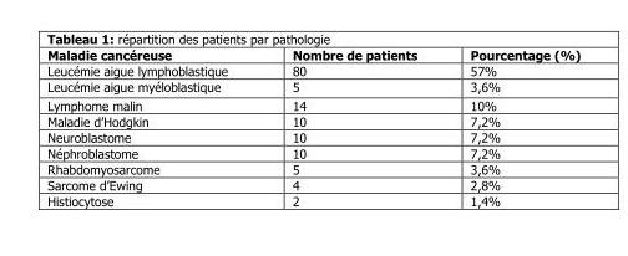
<table><thead><tr><td>Maladie cancéreuse</td><td>Nombre de patients</td><td>Pourcentage (%)</td></tr></thead><tbody><tr><td>Leucémie aigue lymphoblastique</td><td>80</td><td>57%</td></tr><tr><td>Leucémie aigue myéloblastique</td><td>5</td><td>3,6%</td></tr><tr><td>Lymphome malin</td><td>14</td><td>10%</td></tr><tr><td>Maladie d’Hodgkin</td><td>10</td><td>7,2%</td></tr><tr><td>Neuroblastome</td><td>10</td><td>7,2%</td></tr><tr><td>Néphroblastome</td><td>10</td><td>7,2%</td></tr><tr><td>Rhabdomyosarcome</td><td>5</td><td>3,6%</td></tr><tr><td>Sarcome d’Ewing</td><td>4</td><td>2,8%</td></tr><tr><td>Histiocytose</td><td>2</td><td>1,4%</td></tr></tbody></table>